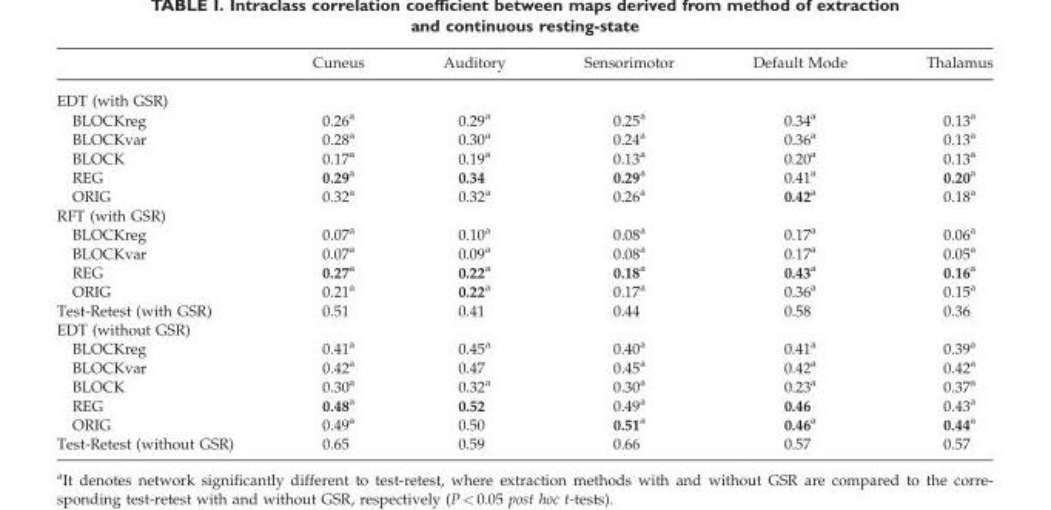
<table><thead><tr><td></td><td>Cuneus</td><td>Auditory</td><td>Sensorimotor</td><td>Default Mode</td><td>Thalamus</td></tr><tr><td colspan="6">EDT (with GSR)</td></tr></thead><tbody><tr><td>BLOCKreg</td><td>0.26<sup>a</sup></td><td>0.29<sup>a</sup></td><td>0.25<sup>a</sup></td><td>0.34<sup>a</sup></td><td>0.13<sup>a</sup></td></tr><tr><td>BLOCKvar</td><td>0.28<sup>a</sup></td><td>0.30<sup>a</sup></td><td>0.24<sup>a</sup></td><td>0.36<sup>a</sup></td><td>0.13<sup>a</sup></td></tr><tr><td>BLOCK</td><td>0.17<sup>a</sup></td><td>0.19<sup>a</sup></td><td>0.13<sup>a</sup></td><td>0.20<sup>a</sup></td><td>0.13<sup>a</sup></td></tr><tr><td>REG</td><td>0.29a</td><td>0.34</td><td>0.29a</td><td>0.41<sup>a</sup></td><td>0.20a</td></tr><tr><td>ORIG</td><td>0.32<sup>a</sup></td><td>0.32<sup>a</sup></td><td>0.26<sup>a</sup></td><td>0.42a</td><td>0.18<sup>a</sup></td></tr><tr><td colspan="6">RFT (with GSR)</td></tr><tr><td>BLOCKreg</td><td>0.07<sup>a</sup></td><td>0.10<sup>a</sup></td><td>0.08<sup>a</sup></td><td>0.17<sup>a</sup></td><td>0.06<sup>a</sup></td></tr><tr><td>BLOCKvar</td><td>0.07<sup>a</sup></td><td>0.09<sup>a</sup></td><td>0.08<sup>a</sup></td><td>0.17<sup>a</sup></td><td>0.05<sup>a</sup></td></tr><tr><td>REG</td><td>0.27a</td><td>0.22a</td><td>0.18a</td><td>0.43a</td><td>0.16a</td></tr><tr><td>ORIG</td><td>0.21<sup>a</sup></td><td>0.22a</td><td>0.17<sup>a</sup></td><td>0.36<sup>a</sup></td><td>0.15<sup>a</sup></td></tr><tr><td>Test-Retest (with GSR)</td><td>0.51</td><td>0.41</td><td>0.44</td><td>0.58</td><td>0.36</td></tr><tr><td colspan="6">EDT (without GSR)</td></tr><tr><td>BLOCKreg</td><td>0.41<sup>a</sup></td><td>0.45<sup>a</sup></td><td>0.40<sup>a</sup></td><td>0.41<sup>a</sup></td><td>0.39<sup>a</sup></td></tr><tr><td>BLOCKvar</td><td>0.42<sup>a</sup></td><td>0.47</td><td>0.45<sup>a</sup></td><td>0.42<sup>a</sup></td><td>0.42<sup>a</sup></td></tr><tr><td>BLOCK</td><td>0.30<sup>a</sup></td><td>0.32<sup>a</sup></td><td>0.30<sup>a</sup></td><td>0.23<sup>a</sup></td><td>0.37<sup>a</sup></td></tr><tr><td>REG</td><td>0.48a</td><td>0.52</td><td>0.49<sup>a</sup></td><td>0.46</td><td>0.43<sup>a</sup></td></tr><tr><td>ORIG</td><td>0.49<sup>a</sup></td><td>0.50</td><td>0.51a</td><td>0.46a</td><td>0.44a</td></tr><tr><td>Test-Retest (without GSR)</td><td>0.65</td><td>0.59</td><td>0.66</td><td>0.57</td><td>0.57</td></tr></tbody></table>